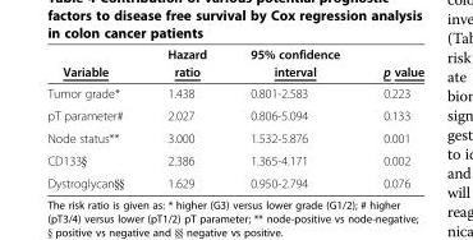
<table><thead><tr><td rowspan="2">Variable</td><td rowspan="2">Hazard ratio</td><td rowspan="2">95% confidence interval</td><td rowspan="2">p value</td></tr><tr></tr></thead><tbody><tr><td>Tumor grade*</td><td>1.438</td><td>0.801-2.583</td><td>0.223</td></tr><tr><td>pT parameter#</td><td>2.027</td><td>0.806-5.094</td><td>0.133</td></tr><tr><td>Node status**</td><td>3.000</td><td>1.532-5.876</td><td>0.001</td></tr><tr><td>CD133§</td><td>2.386</td><td>1.365-4.171</td><td>0.002</td></tr><tr><td>Dystroglycan§§</td><td>1.629</td><td>0.950-2.794</td><td>0.076</td></tr></tbody></table>